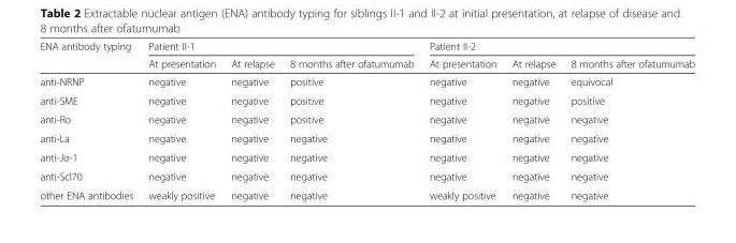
<table><thead><tr><td rowspan="2">ENA antibody typing</td><td colspan="3">Patient II-1</td><td colspan="3">Patient II-2</td></tr><tr><td>At presentation</td><td>At relapse</td><td>8 months after ofatumumab</td><td>At presentation</td><td>At relapse</td><td>8 months after ofatumumab</td></tr></thead><tbody><tr><td>anti-NRNP</td><td>negative</td><td>negative</td><td>positive</td><td>negative</td><td>negative</td><td>equivocal</td></tr><tr><td>anti-SME</td><td>negative</td><td>negative</td><td>positive</td><td>negative</td><td>negative</td><td>positive</td></tr><tr><td>anti-Ro</td><td>negative</td><td>negative</td><td>positive</td><td>negative</td><td>negative</td><td>negative</td></tr><tr><td>anti-La</td><td>negative</td><td>negative</td><td>negative</td><td>negative</td><td>negative</td><td>negative</td></tr><tr><td>anti-Jo-1</td><td>negative</td><td>negative</td><td>negative</td><td>negative</td><td>negative</td><td>negative</td></tr><tr><td>anti-Scl70</td><td>negative</td><td>negative</td><td>negative</td><td>negative</td><td>negative</td><td>negative</td></tr><tr><td>other ENA antibodies</td><td>weakly positive</td><td>negative</td><td>negative</td><td>weakly positive</td><td>negative</td><td>negative</td></tr></tbody></table>